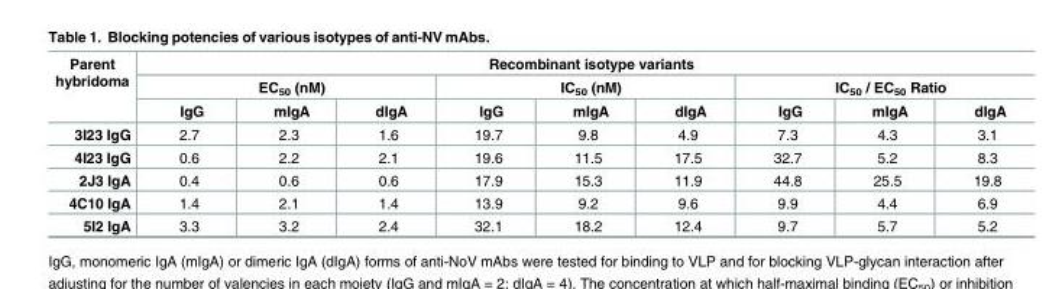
<table><thead><tr><td rowspan="3">Parent hybridoma</td><td colspan="9">Recombinant isotype variants</td></tr><tr><td colspan="3">EC<sub>50</sub> (nM)</td><td colspan="3">IC<sub>50</sub> (nM)</td><td colspan="3">IC<sub>50</sub> / EC<sub>50</sub> Ratio</td></tr><tr><td>IgG</td><td>mIgA</td><td>dIgA</td><td>IgG</td><td>mIgA</td><td>dIgA</td><td>IgG</td><td>mIgA</td><td>dIgA</td></tr></thead><tbody><tr><td>3I23 IgG</td><td>2.7</td><td>2.3</td><td>1.6</td><td>19.7</td><td>9.8</td><td>4.9</td><td>7.3</td><td>4.3</td><td>3.1</td></tr><tr><td>4I23 IgG</td><td>0.6</td><td>2.2</td><td>2.1</td><td>19.6</td><td>11.5</td><td>17.5</td><td>32.7</td><td>5.2</td><td>8.3</td></tr><tr><td>2J3 IgA</td><td>0.4</td><td>0.6</td><td>0.6</td><td>17.9</td><td>15.3</td><td>11.9</td><td>44.8</td><td>25.5</td><td>19.8</td></tr><tr><td>4C10 IgA</td><td>1.4</td><td>2.1</td><td>1.4</td><td>13.9</td><td>9.2</td><td>9.6</td><td>9.9</td><td>4.4</td><td>6.9</td></tr><tr><td>5I2 IgA</td><td>3.3</td><td>3.2</td><td>2.4</td><td>32.1</td><td>18.2</td><td>12.4</td><td>9.7</td><td>5.7</td><td>5.2</td></tr></tbody></table>